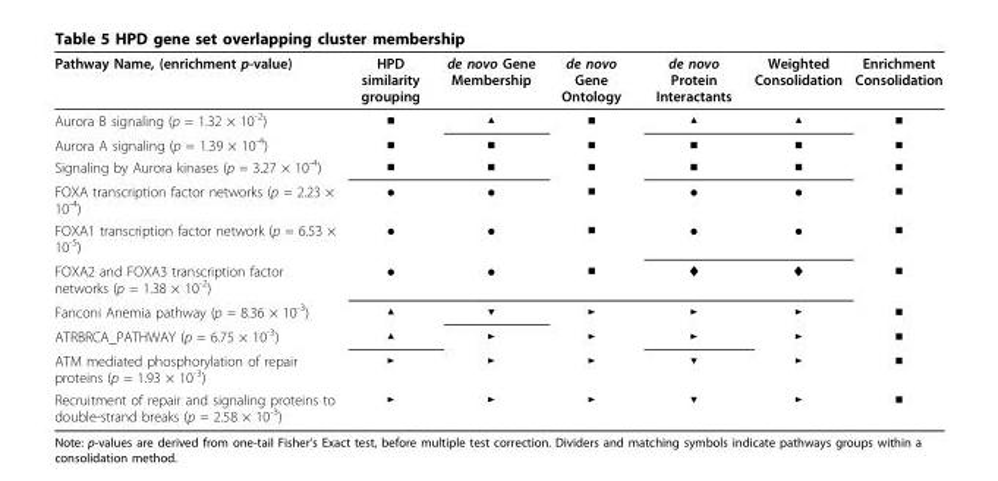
<table><thead><tr><td>Pathway Name, (enrichment p-value)</td><td>HPD similarity grouping</td><td>de novo Gene Membership</td><td>de novo Gene Ontology</td><td>de novo Protein Interactants</td><td>Weighted Consolidation</td><td>Enrichment Consolidation</td></tr></thead><tbody><tr><td>Aurora B signaling (p = 1.32 × 10<sup>-2</sup>)</td><td>■</td><td>▲</td><td>■</td><td>▲</td><td>▲</td><td>■</td></tr><tr><td>Aurora A signaling (p = 1.39 × 10<sup>-4</sup>)</td><td>■</td><td>■</td><td>■</td><td>■</td><td>■</td><td>■</td></tr><tr><td>Signaling by Aurora kinases (p = 3.27 × 10<sup>-4</sup>)</td><td>■</td><td>■</td><td>■</td><td>■</td><td>■</td><td>■</td></tr><tr><td>FOXA transcription factor networks (p = 2.23 × 10<sup>-4</sup>)</td><td>●</td><td>●</td><td>■</td><td>●</td><td>●</td><td>■</td></tr><tr><td>FOXA1 transcription factor network (p = 6.53 × 10<sup>-5</sup>)</td><td>●</td><td>●</td><td>■</td><td>●</td><td>●</td><td>■</td></tr><tr><td>FOXA2 and FOXA3 transcription factor networks (p = 1.38 × 10<sup>-2</sup>)</td><td>●</td><td>●</td><td>■</td><td>♦</td><td>♦</td><td>■</td></tr><tr><td>Fanconi Anemia pathway (p = 8.36 × 10<sup>-3</sup>)</td><td>▲</td><td>▼</td><td>►</td><td>►</td><td>►</td><td>■</td></tr><tr><td>ATRBRCA_PATHWAY (p = 6.75 × 10<sup>-3</sup>)</td><td>▲</td><td>►</td><td>►</td><td>►</td><td>►</td><td>■</td></tr><tr><td>ATM mediated phosphorylation of repair proteins (p = 1.93 × 10<sup>-3</sup>)</td><td>►</td><td>►</td><td>►</td><td>▼</td><td>►</td><td>■</td></tr><tr><td>Recruitment of repair and signaling proteins to double-strand breaks (p = 2.58 × 10<sup>-3</sup>)</td><td>►</td><td>►</td><td>►</td><td>▼</td><td>►</td><td>■</td></tr></tbody></table>